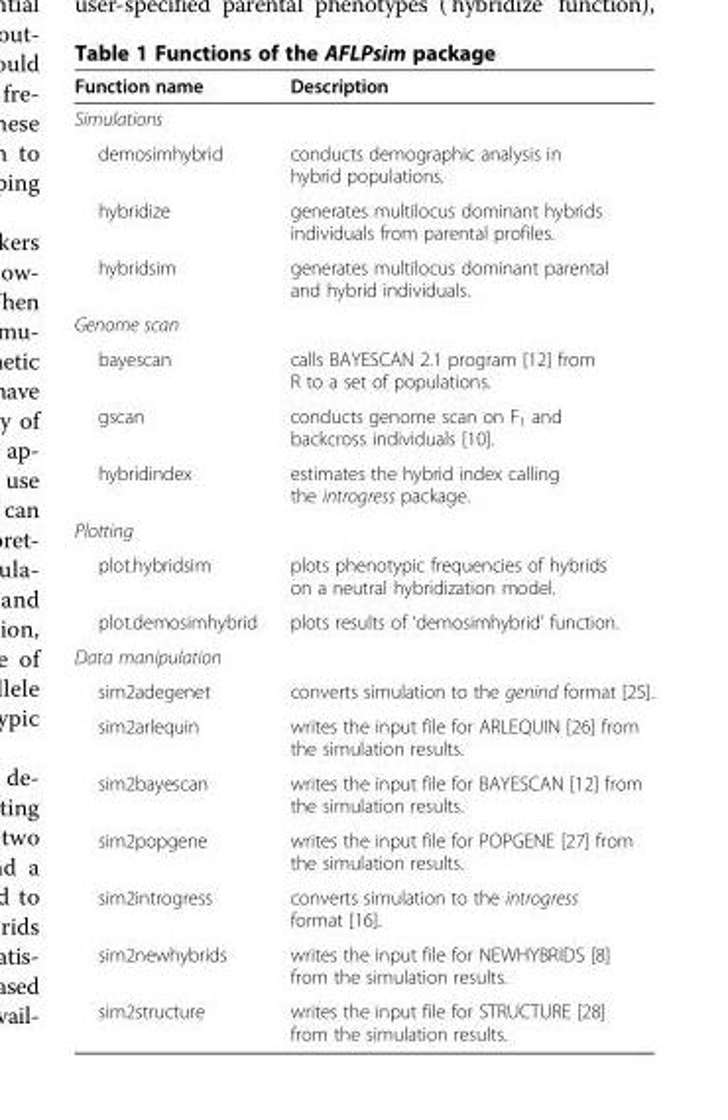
<table><thead><tr><td>Function name</td><td>Description</td></tr></thead><tbody><tr><td colspan="2">Simulations</td></tr><tr><td>demosimhybrid</td><td>conducts demographic analysis in hybrid populations.</td></tr><tr><td>hybridize</td><td>generates multilocus dominant hybrids individuals from parental profiles.</td></tr><tr><td>hybridsim</td><td>generates multilocus dominant parental and hybrid individuals.</td></tr><tr><td colspan="2">Genome scan</td></tr><tr><td>bayescan</td><td>calls BAYESCAN 2.1 program [12] from R to a set of populations.</td></tr><tr><td>gscan</td><td>conducts genome scan on F<sub>1</sub> and backcross individuals [10].</td></tr><tr><td>hybridindex</td><td>estimates the hybrid index calling the introgress package.</td></tr><tr><td colspan="2">Plotting</td></tr><tr><td>plot.hybridsim</td><td>plots phenotypic frequencies of hybrids on a neutral hybridization model.</td></tr><tr><td>plot.demosimhybrid</td><td>plots results of ‘demosimhybrid’ function.</td></tr><tr><td colspan="2">Data manipulation</td></tr><tr><td>sim2adegenet</td><td>converts simulation to the genind format [25].</td></tr><tr><td>sim2arlequin</td><td>writes the input file for ARLEQUIN [26] from the simulation results.</td></tr><tr><td>sim2bayescan</td><td>writes the input file for BAYESCAN [12] from the simulation results.</td></tr><tr><td>sim2popgene</td><td>writes the input file for POPGENE [27] from the simulation results.</td></tr><tr><td>sim2introgress</td><td>converts simulation to the introgress format [16].</td></tr><tr><td>sim2newhybrids</td><td>writes the input file for NEWHYBRIDS [8] from the simulation results.</td></tr><tr><td>sim2structure</td><td>writes the input file for STRUCTURE [28] from the simulation results.</td></tr></tbody></table>